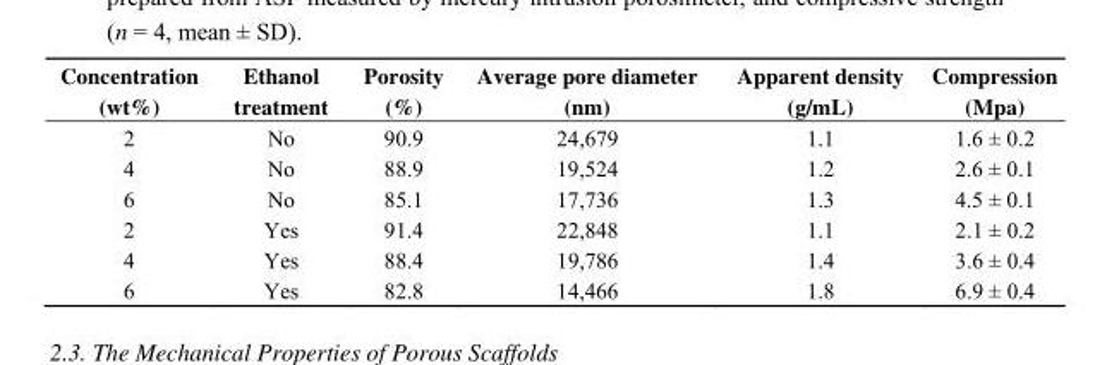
<table><thead><tr><td>Concentration (wt%)</td><td>Ethanol treatment</td><td>Porosity (%)</td><td>Average pore diameter (nm)</td><td>Apparent density (g/mL)</td><td>Compression (Mpa)</td></tr></thead><tbody><tr><td>2</td><td>No</td><td>90.9</td><td>24,679</td><td>1.1</td><td>1.6 ± 0.2</td></tr><tr><td>4</td><td>No</td><td>88.9</td><td>19,524</td><td>1.2</td><td>2.6 ± 0.1</td></tr><tr><td>6</td><td>No</td><td>85.1</td><td>17,736</td><td>1.3</td><td>4.5 ± 0.1</td></tr><tr><td>2</td><td>Yes</td><td>91.4</td><td>22,848</td><td>1.1</td><td>2.1 ± 0.2</td></tr><tr><td>4</td><td>Yes</td><td>88.4</td><td>19,786</td><td>1.4</td><td>3.6 ± 0.4</td></tr><tr><td>6</td><td>Yes</td><td>82.8</td><td>14,466</td><td>1.8</td><td>6.9 ± 0.4</td></tr></tbody></table>